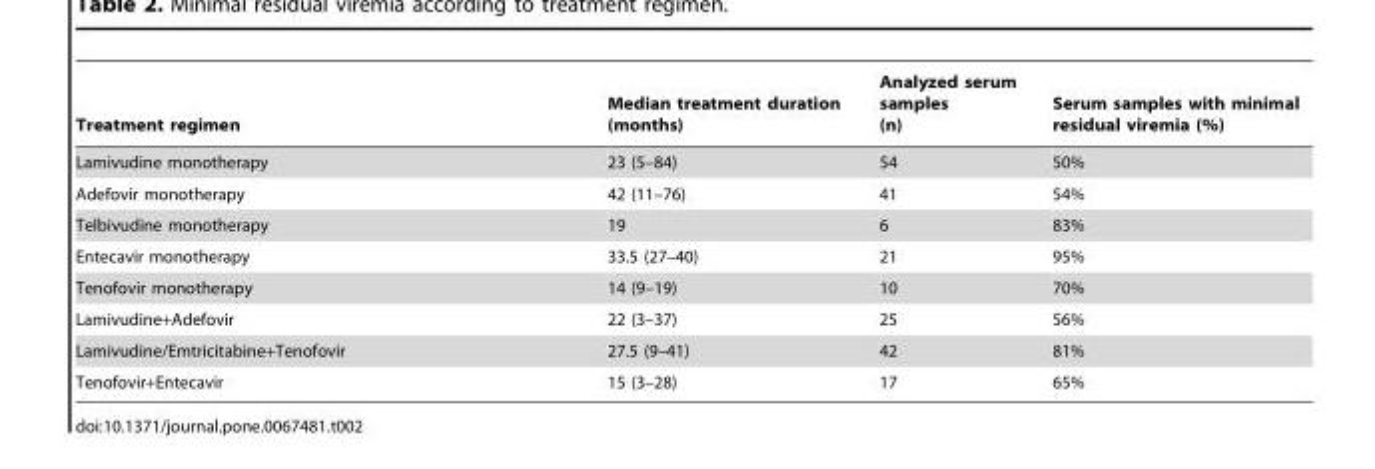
<table><thead><tr><td>Treatment regimen</td><td>Median treatment duration (months)</td><td>Analyzed serum samples (n)</td><td>Serum samples with minimal residual viremia (%)</td></tr></thead><tbody><tr><td>Lamivudine monotherapy</td><td>23 (5–84)</td><td>54</td><td>50%</td></tr><tr><td>Adefovir monotherapy</td><td>42 (11–76)</td><td>41</td><td>54%</td></tr><tr><td>Telbivudine monotherapy</td><td>19</td><td>6</td><td>83%</td></tr><tr><td>Entecavir monotherapy</td><td>33.5 (27–40)</td><td>21</td><td>95%</td></tr><tr><td>Tenofovir monotherapy</td><td>14 (9–19)</td><td>10</td><td>70%</td></tr><tr><td>Lamivudine+Adefovir</td><td>22 (3–37)</td><td>25</td><td>56%</td></tr><tr><td>Lamivudine/Emtricitabine+Tenofovir</td><td>27.5 (9–41)</td><td>42</td><td>81%</td></tr><tr><td>Tenofovir+Entecavir</td><td>15 (3–28)</td><td>17</td><td>65%</td></tr></tbody></table>